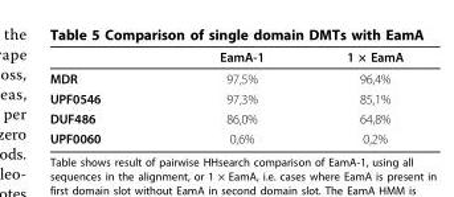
<table><thead><tr><td></td><td>EamA-1</td><td>1 × EamA</td></tr></thead><tbody><tr><td>MDR</td><td>97,5%</td><td>96,4%</td></tr><tr><td>UPF0546</td><td>97,3%</td><td>85,1%</td></tr><tr><td>DUF486</td><td>86,0%</td><td>64,8%</td></tr><tr><td>UPF0060</td><td>0,6%</td><td>0,2%</td></tr></tbody></table>